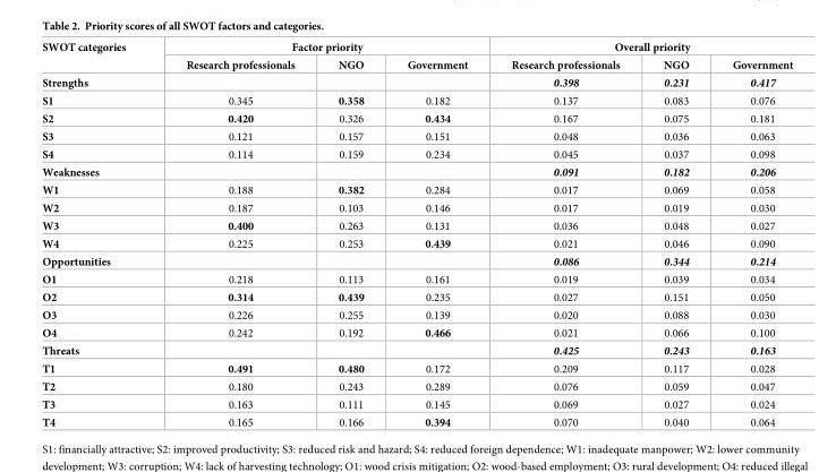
<table><thead><tr><td rowspan="2">SWOT categories</td><td colspan="3">Factor priority</td><td colspan="3">Overall priority</td></tr><tr><td>Research professionals</td><td>NGO</td><td>Government</td><td>Research professionals</td><td>NGO</td><td>Government</td></tr></thead><tbody><tr><td>Strengths</td><td></td><td></td><td></td><td>0.398</td><td>0.231</td><td>0.417</td></tr><tr><td>S1</td><td>0.345</td><td>0.358</td><td>0.182</td><td>0.137</td><td>0.083</td><td>0.076</td></tr><tr><td>S2</td><td>0.420</td><td>0.326</td><td>0.434</td><td>0.167</td><td>0.075</td><td>0.181</td></tr><tr><td>S3</td><td>0.121</td><td>0.157</td><td>0.151</td><td>0.048</td><td>0.036</td><td>0.063</td></tr><tr><td>S4</td><td>0.114</td><td>0.159</td><td>0.234</td><td>0.045</td><td>0.037</td><td>0.098</td></tr><tr><td>Weaknesses</td><td></td><td></td><td></td><td>0.091</td><td>0.182</td><td>0.206</td></tr><tr><td>W1</td><td>0.188</td><td>0.382</td><td>0.284</td><td>0.017</td><td>0.069</td><td>0.058</td></tr><tr><td>W2</td><td>0.187</td><td>0.103</td><td>0.146</td><td>0.017</td><td>0.019</td><td>0.030</td></tr><tr><td>W3</td><td>0.400</td><td>0.263</td><td>0.131</td><td>0.036</td><td>0.048</td><td>0.027</td></tr><tr><td>W4</td><td>0.225</td><td>0.253</td><td>0.439</td><td>0.021</td><td>0.046</td><td>0.090</td></tr><tr><td>Opportunities</td><td></td><td></td><td></td><td>0.086</td><td>0.344</td><td>0.214</td></tr><tr><td>O1</td><td>0.218</td><td>0.113</td><td>0.161</td><td>0.019</td><td>0.039</td><td>0.034</td></tr><tr><td>O2</td><td>0.314</td><td>0.439</td><td>0.235</td><td>0.027</td><td>0.151</td><td>0.050</td></tr><tr><td>O3</td><td>0.226</td><td>0.255</td><td>0.139</td><td>0.020</td><td>0.088</td><td>0.030</td></tr><tr><td>O4</td><td>0.242</td><td>0.192</td><td>0.466</td><td>0.021</td><td>0.066</td><td>0.100</td></tr><tr><td>Threats</td><td></td><td></td><td></td><td>0.425</td><td>0.243</td><td>0.163</td></tr><tr><td>T1</td><td>0.491</td><td>0.480</td><td>0.172</td><td>0.209</td><td>0.117</td><td>0.028</td></tr><tr><td>T2</td><td>0.180</td><td>0.243</td><td>0.289</td><td>0.076</td><td>0.059</td><td>0.047</td></tr><tr><td>T3</td><td>0.163</td><td>0.111</td><td>0.145</td><td>0.069</td><td>0.027</td><td>0.024</td></tr><tr><td>T4</td><td>0.165</td><td>0.166</td><td>0.394</td><td>0.070</td><td>0.040</td><td>0.064</td></tr></tbody></table>